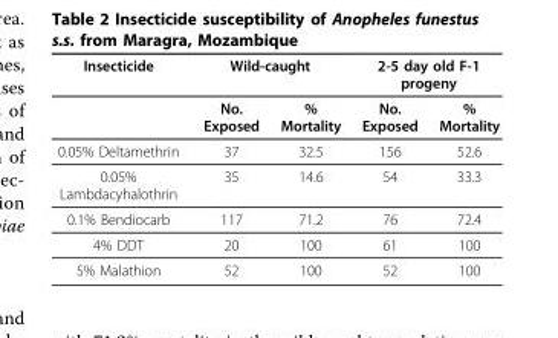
<table><thead><tr><td rowspan="2">Insecticide</td><td colspan="2">Wild-caught</td><td colspan="2">2-5 day old F-1 progeny</td></tr><tr><td>No. Exposed</td><td>% Mortality</td><td>No. Exposed</td><td>% Mortality</td></tr></thead><tbody><tr><td>0.05% Deltamethrin</td><td>37</td><td>32.5</td><td>156</td><td>52.6</td></tr><tr><td>0.05% Lambdacyhalothrin</td><td>35</td><td>14.6</td><td>54</td><td>33.3</td></tr><tr><td>0.1% Bendiocarb</td><td>117</td><td>71.2</td><td>76</td><td>72.4</td></tr><tr><td>4% DDT</td><td>20</td><td>100</td><td>61</td><td>100</td></tr><tr><td>5% Malathion</td><td>52</td><td>100</td><td>52</td><td>100</td></tr></tbody></table>